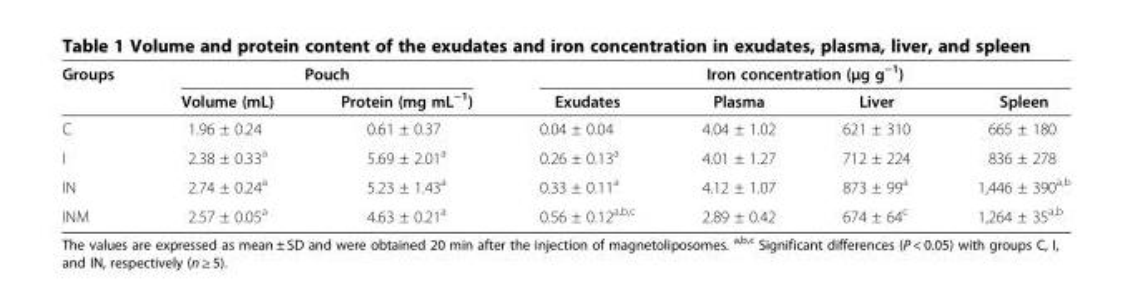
<table><thead><tr><td rowspan="2">Groups</td><td colspan="2">Pouch</td><td colspan="4">Iron concentration (μg g<sup>−1</sup>)</td></tr><tr><td>Volume (mL)</td><td>Protein (mg mL<sup>−1</sup>)</td><td>Exudates</td><td>Plasma</td><td>Liver</td><td>Spleen</td></tr></thead><tbody><tr><td>C</td><td>1.96 ± 0.24</td><td>0.61 ± 0.37</td><td>0.04 ± 0.04</td><td>4.04 ± 1.02</td><td>621 ± 310</td><td>665 ± 180</td></tr><tr><td>I</td><td>2.38 ± 0.33<sup>a</sup></td><td>5.69 ± 2.01<sup>a</sup></td><td>0.26 ± 0.13<sup>a</sup></td><td>4.01 ± 1.27</td><td>712 ± 224</td><td>836 ± 278</td></tr><tr><td>IN</td><td>2.74 ± 0.24<sup>a</sup></td><td>5.23 ± 1.43<sup>a</sup></td><td>0.33 ± 0.11<sup>a</sup></td><td>4.12 ± 1.07</td><td>873 ± 99<sup>a</sup></td><td>1,446 ± 390<sup>a,b</sup></td></tr><tr><td>INM</td><td>2.57 ± 0.05<sup>a</sup></td><td>4.63 ± 0.21<sup>a</sup></td><td>0.56 ± 0.12<sup>a,b,c</sup></td><td>2.89 ± 0.42</td><td>674 ± 64<sup>c</sup></td><td>1,264 ± 35<sup>a,b</sup></td></tr></tbody></table>